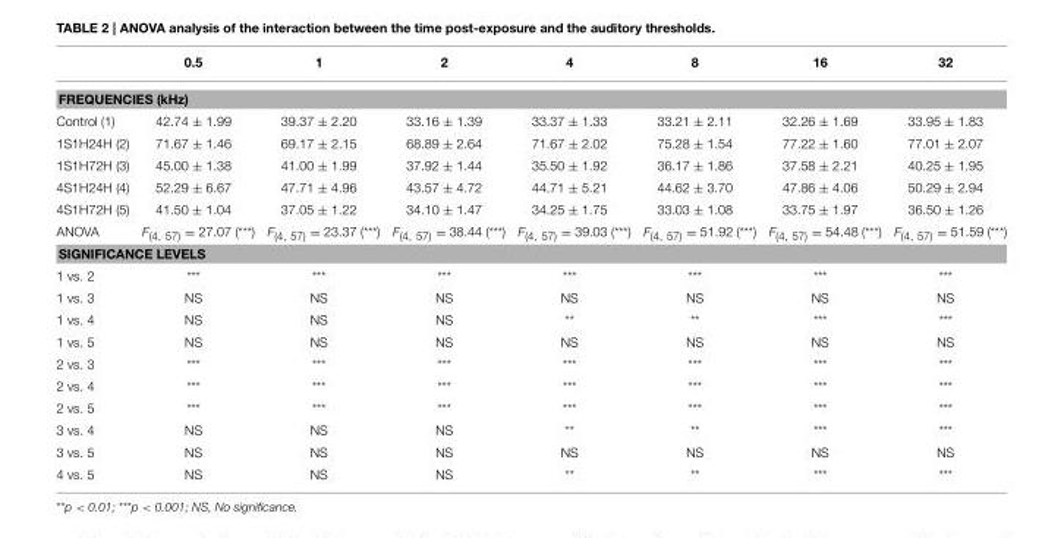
<table><thead><tr><td></td><td>0.5</td><td>1</td><td>2</td><td>4</td><td>8</td><td>16</td><td>32</td></tr></thead><tbody><tr><td colspan="8">FREQUENCIES (kHz)</td></tr><tr><td>Control (1)</td><td>42.74 ± 1.99</td><td>39.37 ± 2.20</td><td>33.16 ± 1.39</td><td>33.37 ± 1.33</td><td>33.21 ± 2.11</td><td>32.26 ± 1.69</td><td>33.95 ± 1.83</td></tr><tr><td>1S1H24H (2)</td><td>71.67 ± 1.46</td><td>69.17 ± 2.15</td><td>68.89 ± 2.64</td><td>71.67 ± 2.02</td><td>75.28 ± 1.54</td><td>77.22 ± 1.60</td><td>77.01 ± 2.07</td></tr><tr><td>1S1H72H (3)</td><td>45.00 ± 1.38</td><td>41.00 ± 1.99</td><td>37.92 ± 1.44</td><td>35.50 ± 1.92</td><td>36.17 ± 1.86</td><td>37.58 ± 2.21</td><td>40.25 ± 1.95</td></tr><tr><td>4S1H24H (4)</td><td>52.29 ± 6.67</td><td>47.71 ± 4.96</td><td>43.57 ± 4.72</td><td>44.71 ± 5.21</td><td>44.62 ± 3.70</td><td>47.86 ± 4.06</td><td>50.29 ± 2.94</td></tr><tr><td>4S1H72H (5)</td><td>41.50 ± 1.04</td><td>37.05 ± 1.22</td><td>34.10 ± 1.47</td><td>34.25 ± 1.75</td><td>33.03 ± 1.08</td><td>33.75 ± 1.97</td><td>36.50 ± 1.26</td></tr><tr><td>ANOVA</td><td>F<sub>(4, 57)</sub> = 27.07 (***)</td><td>F<sub>(4, 57)</sub> = 23.37 (***)</td><td>F<sub>(4, 57)</sub> = 38.44 (***)</td><td>F<sub>(4, 57)</sub> = 39.03 (***)</td><td>F<sub>(4, 57)</sub> = 51.92 (***)</td><td>F<sub>(4, 57)</sub> = 54.48 (***)</td><td>F<sub>(4, 57)</sub> = 51.59 (***)</td></tr><tr><td colspan="8">SIGNIFICANCE LEVELS</td></tr><tr><td>1 vs. 2</td><td>***</td><td>***</td><td>***</td><td>***</td><td>***</td><td>***</td><td>***</td></tr><tr><td>1 vs. 3</td><td>NS</td><td>NS</td><td>NS</td><td>NS</td><td>NS</td><td>NS</td><td>NS</td></tr><tr><td>1 vs. 4</td><td>NS</td><td>NS</td><td>NS</td><td>**</td><td>**</td><td>***</td><td>***</td></tr><tr><td>1 vs. 5</td><td>NS</td><td>NS</td><td>NS</td><td>NS</td><td>NS</td><td>NS</td><td>NS</td></tr><tr><td>2 vs. 3</td><td>***</td><td>***</td><td>***</td><td>***</td><td>***</td><td>***</td><td>***</td></tr><tr><td>2 vs. 4</td><td>***</td><td>***</td><td>***</td><td>***</td><td>***</td><td>***</td><td>***</td></tr><tr><td>2 vs. 5</td><td>***</td><td>***</td><td>***</td><td>***</td><td>***</td><td>***</td><td>***</td></tr><tr><td>3 vs. 4</td><td>NS</td><td>NS</td><td>NS</td><td>**</td><td>**</td><td>***</td><td>***</td></tr><tr><td>3 vs. 5</td><td>NS</td><td>NS</td><td>NS</td><td>NS</td><td>NS</td><td>NS</td><td>NS</td></tr><tr><td>4 vs. 5</td><td>NS</td><td>NS</td><td>NS</td><td>**</td><td>**</td><td>***</td><td>***</td></tr></tbody></table>